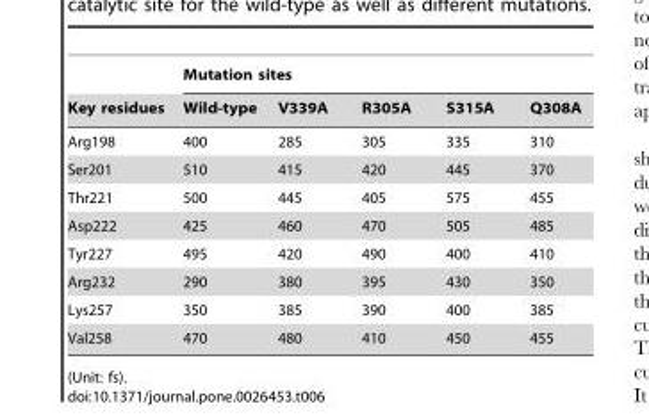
<table><thead><tr><td rowspan="2">Key residues</td><td colspan="5">Mutation sites</td></tr><tr><td>Wild-type</td><td>V339A</td><td>R305A</td><td>S315A</td><td>Q308A</td></tr></thead><tbody><tr><td>Arg198</td><td>400</td><td>285</td><td>305</td><td>335</td><td>310</td></tr><tr><td>Ser201</td><td>510</td><td>415</td><td>420</td><td>445</td><td>370</td></tr><tr><td>Thr221</td><td>500</td><td>445</td><td>405</td><td>575</td><td>455</td></tr><tr><td>Asp222</td><td>425</td><td>460</td><td>470</td><td>505</td><td>485</td></tr><tr><td>Tyr227</td><td>495</td><td>420</td><td>490</td><td>400</td><td>410</td></tr><tr><td>Arg232</td><td>290</td><td>380</td><td>395</td><td>430</td><td>350</td></tr><tr><td>Lys257</td><td>350</td><td>385</td><td>390</td><td>400</td><td>385</td></tr><tr><td>Val258</td><td>470</td><td>480</td><td>410</td><td>450</td><td>455</td></tr></tbody></table>